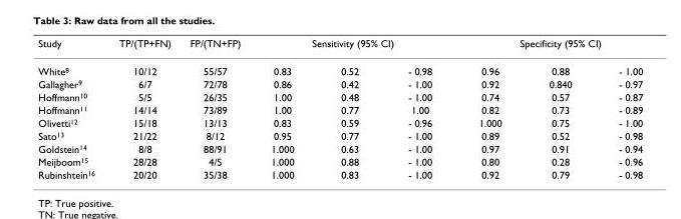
<table><thead><tr><td rowspan="2">Study White<sup>8</sup></td><td rowspan="2">TP/(TP+FN) 10/12</td><td rowspan="2">FP/(TN+FP) 55/57</td><td colspan="3">Sensitivity (95% CI)</td><td colspan="3">Specificity (95% CI)</td></tr><tr><td>0.83</td><td>0.52</td><td>- 0.98</td><td>0.96</td><td>0.88</td><td>- 1.00</td></tr></thead><tbody><tr><td>Gallagher<sup>9</sup></td><td>6/7</td><td>72/78</td><td>0.86</td><td>0.42</td><td>- 1.00</td><td>0.92</td><td>0.840</td><td>- 0.97</td></tr><tr><td>Hoffmann<sup>10</sup></td><td>5/5</td><td>26/35</td><td>1.00</td><td>0.48</td><td>- 1.00</td><td>0.74</td><td>0.57</td><td>- 0.87</td></tr><tr><td>Hoffmann<sup>11</sup></td><td>14/14</td><td>73/89</td><td>1.00</td><td>0.77</td><td>1.00</td><td>0.82</td><td>0.73</td><td>- 0.89</td></tr><tr><td>Olivetti<sup>12</sup></td><td>15/18</td><td>13/13</td><td>0.83</td><td>0.59</td><td>- 0.96</td><td>1.000</td><td>0.75</td><td>- 1.00</td></tr><tr><td>Sato<sup>13</sup></td><td>21/22</td><td>8/12</td><td>0.95</td><td>0.77</td><td>- 1.00</td><td>0.89</td><td>0.52</td><td>- 0.98</td></tr><tr><td>Goldstein<sup>14</sup></td><td>8/8</td><td>88/91</td><td>1.000</td><td>0.63</td><td>- 1.00</td><td>0.97</td><td>0.91</td><td>- 0.94</td></tr><tr><td>Meijboom<sup>15</sup></td><td>28/28</td><td>4/5</td><td>1.000</td><td>0.88</td><td>- 1.00</td><td>0.80</td><td>0.28</td><td>- 0.96</td></tr><tr><td>Rubinshtein<sup>16</sup></td><td>20/20</td><td>35/38</td><td>1.000</td><td>0.83</td><td>- 1.00</td><td>0.92</td><td>0.79</td><td>- 0.98</td></tr></tbody></table>